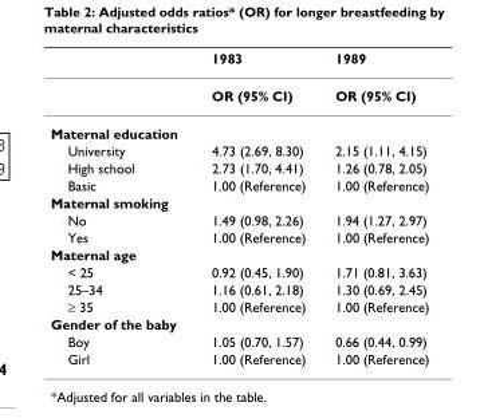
<table><thead><tr><td></td><td>1983</td><td>1989</td></tr></thead><tbody><tr><td></td><td>OR (95% CI)</td><td>OR (95% CI)</td></tr><tr><td colspan="3">Maternal education</td></tr><tr><td>University</td><td>4.73 (2.69, 8.30)</td><td>2.15 (1.11, 4.15)</td></tr><tr><td>High school</td><td>2.73 (1.70, 4.41)</td><td>1.26 (0.78, 2.05)</td></tr><tr><td>Basic</td><td>1.00 (Reference)</td><td>1.00 (Reference)</td></tr><tr><td colspan="3">Maternal smoking</td></tr><tr><td>No</td><td>1.49 (0.98, 2.26)</td><td>1.94 (1.27, 2.97)</td></tr><tr><td>Yes</td><td>1.00 (Reference)</td><td>1.00 (Reference)</td></tr><tr><td colspan="3">Maternal age</td></tr><tr><td>&lt; 25</td><td>0.92 (0.45, 1.90)</td><td>1.71 (0.81, 3.63)</td></tr><tr><td>25–34</td><td>1.16 (0.61, 2.18)</td><td>1.30 (0.69, 2.45)</td></tr><tr><td>≥ 35</td><td>1.00 (Reference)</td><td>1.00 (Reference)</td></tr><tr><td colspan="3">Gender of the baby</td></tr><tr><td>Boy</td><td>1.05 (0.70, 1.57)</td><td>0.66 (0.44, 0.99)</td></tr><tr><td>Girl</td><td>1.00 (Reference)</td><td>1.00 (Reference)</td></tr></tbody></table>